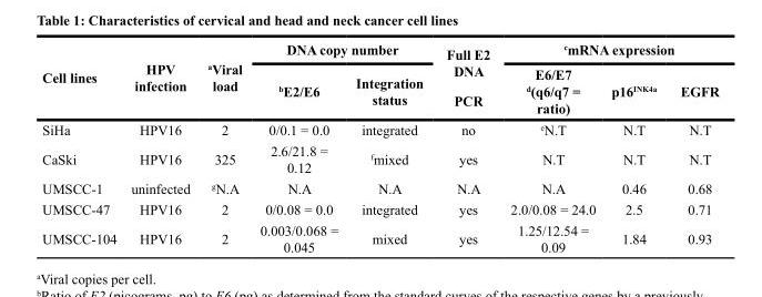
<table><thead><tr><td rowspan="2">Cell lines</td><td rowspan="2">HPV infection</td><td rowspan="2"><sup>a</sup>Viral load</td><td colspan="2">DNA copy number</td><td rowspan="2">Full E2 DNA PCR</td><td colspan="3"><sup>c</sup>mRNA expression</td></tr><tr><td><sup>b</sup>E2/E6</td><td>Integration status</td><td>E6/E7 <sup>d</sup>(q6/q7 = ratio)</td><td>p16<sup>INK4a</sup></td><td>EGFR</td></tr></thead><tbody><tr><td>SiHa</td><td>HPV16</td><td>2</td><td>0/0.1 = 0.0</td><td>integrated</td><td>no</td><td><sup>e</sup>N.T</td><td>N.T</td><td>N.T</td></tr><tr><td>CaSki</td><td>HPV16</td><td>325</td><td>2.6/21.8 = 0.12</td><td><sup>f</sup>mixed</td><td>yes</td><td>N.T</td><td>N.T</td><td>N.T</td></tr><tr><td>UMSCC-1</td><td>uninfected</td><td><sup>g</sup>N.A</td><td>N.A</td><td>N.A</td><td>N.A</td><td>N.A</td><td>0.46</td><td>0.68</td></tr><tr><td>UMSCC-47</td><td>HPV16</td><td>2</td><td>0/0.08 = 0.0</td><td>integrated</td><td>yes</td><td>2.0/0.08 = 24.0</td><td>2.5</td><td>0.71</td></tr><tr><td>UMSCC-104</td><td>HPV16</td><td>2</td><td>0.003/0.068 = 0.045</td><td>mixed</td><td>yes</td><td>1.25/12.54 = 0.09</td><td>1.84</td><td>0.93</td></tr></tbody></table>